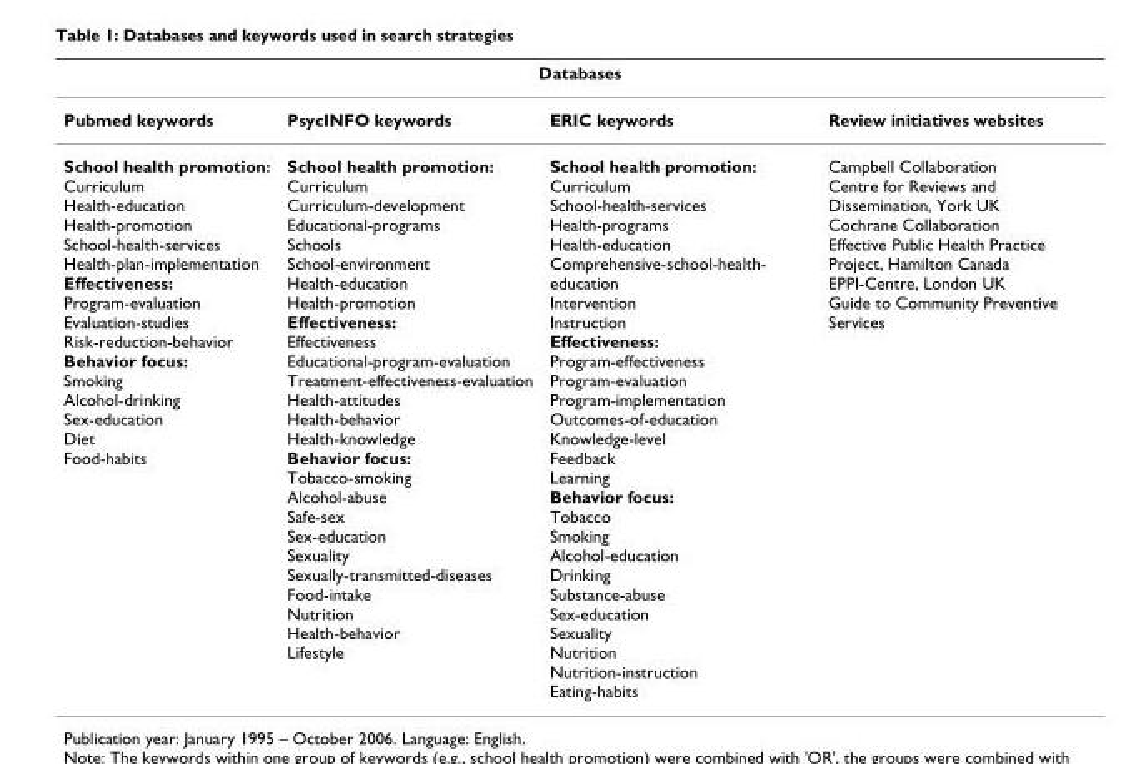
<table><thead><tr><td colspan="4">Databases</td></tr><tr><td>Pubmed keywords</td><td>PsycINFO keywords</td><td>ERIC keywords</td><td>Review initiatives websites</td></tr></thead><tbody><tr><td>School health promotion: Curriculum Health-education Health-promotion School-health-services Health-plan-implementation Effectiveness: Program-evaluation Evaluation-studies Risk-reduction-behavior Behavior focus: Smoking Alcohol-drinking Sex-education Diet Food-habits</td><td>School health promotion: Curriculum Curriculum-development Educational-programs Schools School-environment Health-education Health-promotion Effectiveness: Effectiveness Educational-program-evaluation Treatment-effectiveness-evaluation Health-attitudes Health-behavior Health-knowledge Behavior focus: Tobacco-smoking Alcohol-abuse Safe-sex Sex-education Sexuality Sexually-transmitted-diseases Food-intake Nutrition Health-behavior Lifestyle</td><td>School health promotion: Curriculum School-health-services Health-programs Health-education Comprehensive-school-health- education Intervention Instruction Effectiveness: Program-effectiveness Program-evaluation Program-implementation Outcomes-of-education Knowledge-level Feedback Learning Behavior focus: Tobacco Smoking Alcohol-education Drinking Substance-abuse Sex-education Sexuality Nutrition Nutrition-instruction Eating-habits</td><td>Campbell Collaboration Centre for Reviews and Dissemination, York UK Cochrane Collaboration Effective Public Health Practice Project, Hamilton Canada EPPI-Centre, London UK Guide to Community Preventive Services</td></tr></tbody></table>